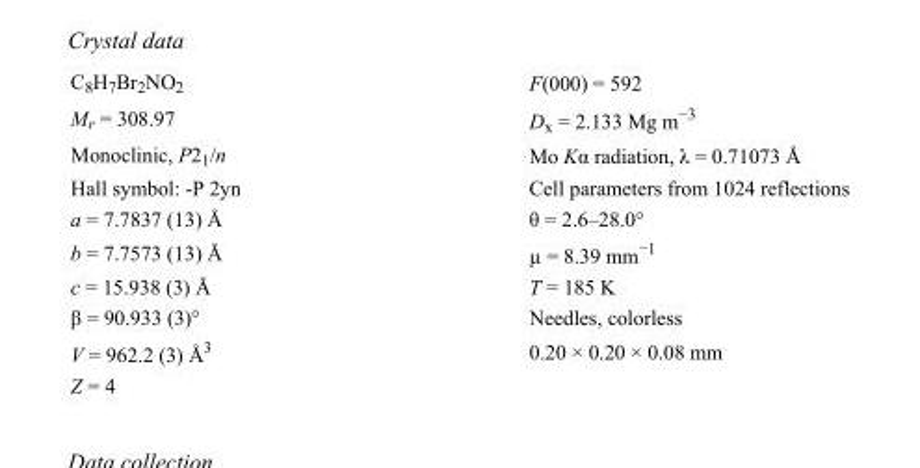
<table><tbody><tr><td>C<sub>8</sub>H<sub>7</sub>Br<sub>2</sub>NO<sub>2</sub></td><td>F(000) = 592</td></tr><tr><td>M<sub>r</sub> = 308.97</td><td>D<sub>x</sub> = 2.133 Mg m<sup>−3</sup></td></tr><tr><td>Monoclinic, P2<sub>1</sub>/n</td><td>Mo Kα radiation, λ = 0.71073 Å</td></tr><tr><td>Hall symbol: -P 2yn</td><td>Cell parameters from 1024 reflections</td></tr><tr><td>a = 7.7837 (13) Å</td><td>θ = 2.6–28.0°</td></tr><tr><td>b = 7.7573 (13) Å</td><td>µ = 8.39 mm<sup>−1</sup></td></tr><tr><td>c = 15.938 (3) Å</td><td>T = 185 K</td></tr><tr><td>β = 90.933 (3)°</td><td>Needles, colorless</td></tr><tr><td>V = 962.2 (3) Å<sup>3</sup></td><td>0.20 × 0.20 × 0.08 mm</td></tr><tr><td>Z = 4</td><td></td></tr></tbody></table>